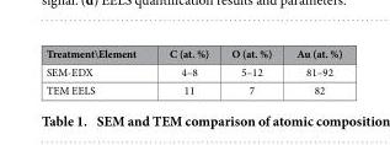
<table><thead><tr><td>Treatment\Element</td><td>C (at. %)</td><td>O (at. %)</td><td>Au (at. %)</td></tr></thead><tbody><tr><td>SEM-EDX</td><td>4–8</td><td>5–12</td><td>81–92</td></tr><tr><td>TEM EELS</td><td>11</td><td>7</td><td>82</td></tr></tbody></table>